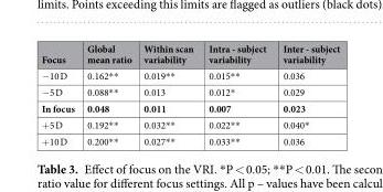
<table><thead><tr><td>Focus</td><td>Global mean ratio</td><td>Within scan variability</td><td>Intra - subject variability</td><td>Inter - subject variability</td></tr></thead><tbody><tr><td>−10 D</td><td>0.162**</td><td>0.019**</td><td>0.015**</td><td>0.036</td></tr><tr><td>−5 D</td><td>0.088**</td><td>0.013</td><td>0.012*</td><td>0.029</td></tr><tr><td>In focus</td><td>0.048</td><td>0.011</td><td>0.007</td><td>0.023</td></tr><tr><td>+5 D</td><td>0.192**</td><td>0.032**</td><td>0.022**</td><td>0.040*</td></tr><tr><td>+10 D</td><td>0.200**</td><td>0.027**</td><td>0.033**</td><td>0.036</td></tr></tbody></table>